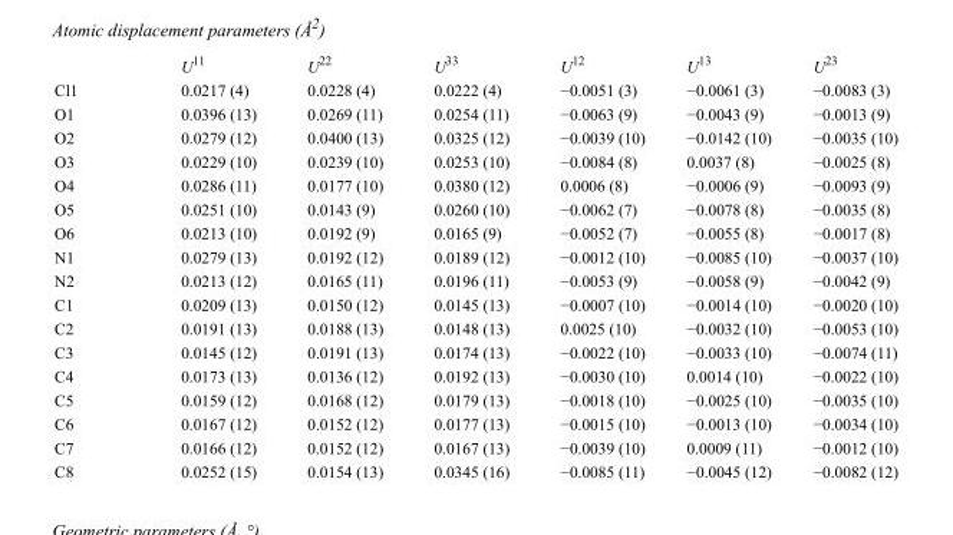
<table><thead><tr><td></td><td>U<sup>11</sup></td><td>U<sup>22</sup></td><td>U<sup>33</sup></td><td>U<sup>12</sup></td><td>U<sup>13</sup></td><td>U<sup>23</sup></td></tr></thead><tbody><tr><td>Cl1</td><td>0.0217 (4)</td><td>0.0228 (4)</td><td>0.0222 (4)</td><td>−0.0051 (3)</td><td>−0.0061 (3)</td><td>−0.0083 (3)</td></tr><tr><td>O1</td><td>0.0396 (13)</td><td>0.0269 (11)</td><td>0.0254 (11)</td><td>−0.0063 (9)</td><td>−0.0043 (9)</td><td>−0.0013 (9)</td></tr><tr><td>O2</td><td>0.0279 (12)</td><td>0.0400 (13)</td><td>0.0325 (12)</td><td>−0.0039 (10)</td><td>−0.0142 (10)</td><td>−0.0035 (10)</td></tr><tr><td>O3</td><td>0.0229 (10)</td><td>0.0239 (10)</td><td>0.0253 (10)</td><td>−0.0084 (8)</td><td>0.0037 (8)</td><td>−0.0025 (8)</td></tr><tr><td>O4</td><td>0.0286 (11)</td><td>0.0177 (10)</td><td>0.0380 (12)</td><td>0.0006 (8)</td><td>−0.0006 (9)</td><td>−0.0093 (9)</td></tr><tr><td>O5</td><td>0.0251 (10)</td><td>0.0143 (9)</td><td>0.0260 (10)</td><td>−0.0062 (7)</td><td>−0.0078 (8)</td><td>−0.0035 (8)</td></tr><tr><td>O6</td><td>0.0213 (10)</td><td>0.0192 (9)</td><td>0.0165 (9)</td><td>−0.0052 (7)</td><td>−0.0055 (8)</td><td>−0.0017 (8)</td></tr><tr><td>N1</td><td>0.0279 (13)</td><td>0.0192 (12)</td><td>0.0189 (12)</td><td>−0.0012 (10)</td><td>−0.0085 (10)</td><td>−0.0037 (10)</td></tr><tr><td>N2</td><td>0.0213 (12)</td><td>0.0165 (11)</td><td>0.0196 (11)</td><td>−0.0053 (9)</td><td>−0.0058 (9)</td><td>−0.0042 (9)</td></tr><tr><td>C1</td><td>0.0209 (13)</td><td>0.0150 (12)</td><td>0.0145 (13)</td><td>−0.0007 (10)</td><td>−0.0014 (10)</td><td>−0.0020 (10)</td></tr><tr><td>C2</td><td>0.0191 (13)</td><td>0.0188 (13)</td><td>0.0148 (13)</td><td>0.0025 (10)</td><td>−0.0032 (10)</td><td>−0.0053 (10)</td></tr><tr><td>C3</td><td>0.0145 (12)</td><td>0.0191 (13)</td><td>0.0174 (13)</td><td>−0.0022 (10)</td><td>−0.0033 (10)</td><td>−0.0074 (11)</td></tr><tr><td>C4</td><td>0.0173 (13)</td><td>0.0136 (12)</td><td>0.0192 (13)</td><td>−0.0030 (10)</td><td>0.0014 (10)</td><td>−0.0022 (10)</td></tr><tr><td>C5</td><td>0.0159 (12)</td><td>0.0168 (12)</td><td>0.0179 (13)</td><td>−0.0018 (10)</td><td>−0.0025 (10)</td><td>−0.0035 (10)</td></tr><tr><td>C6</td><td>0.0167 (12)</td><td>0.0152 (12)</td><td>0.0177 (13)</td><td>−0.0015 (10)</td><td>−0.0013 (10)</td><td>−0.0034 (10)</td></tr><tr><td>C7</td><td>0.0166 (12)</td><td>0.0152 (12)</td><td>0.0167 (13)</td><td>−0.0039 (10)</td><td>0.0009 (11)</td><td>−0.0012 (10)</td></tr><tr><td>C8</td><td>0.0252 (15)</td><td>0.0154 (13)</td><td>0.0345 (16)</td><td>−0.0085 (11)</td><td>−0.0045 (12)</td><td>−0.0082 (12)</td></tr></tbody></table>